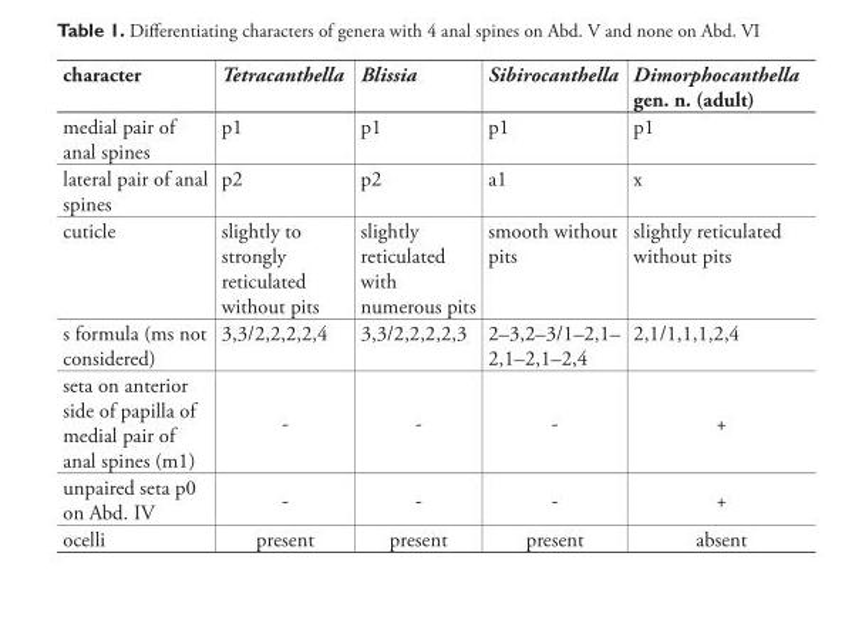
<table><thead><tr><td>character</td><td>Tetracanthella</td><td>Blissia</td><td>Sibirocanthella</td><td>Dimorphocanthella gen. n. (adult)</td></tr></thead><tbody><tr><td>medial pair of anal spines</td><td>p1</td><td>p1</td><td>p1</td><td>p1</td></tr><tr><td>lateral pair of anal spines</td><td>p2</td><td>p2</td><td>a1</td><td>x</td></tr><tr><td>cuticle</td><td>slightly to strongly reticulated without pits</td><td>slightly reticulated with numerous pits</td><td>smooth without pits</td><td>slightly reticulated without pits</td></tr><tr><td>s formula (ms not considered)</td><td>3,3/2,2,2,2,4</td><td>3,3/2,2,2,2,3</td><td>2–3,2–3/1–2,1– 2,1–2,1–2,4</td><td>2,1/1,1,1,2,4</td></tr><tr><td>seta on anterior side of papilla of medial pair of anal spines (m1)</td><td>-</td><td>-</td><td>-</td><td>+</td></tr><tr><td>unpaired seta p0 on Abd. IV</td><td>-</td><td>-</td><td>-</td><td>+</td></tr><tr><td>ocelli</td><td>present</td><td>present</td><td>present</td><td>absent</td></tr></tbody></table>